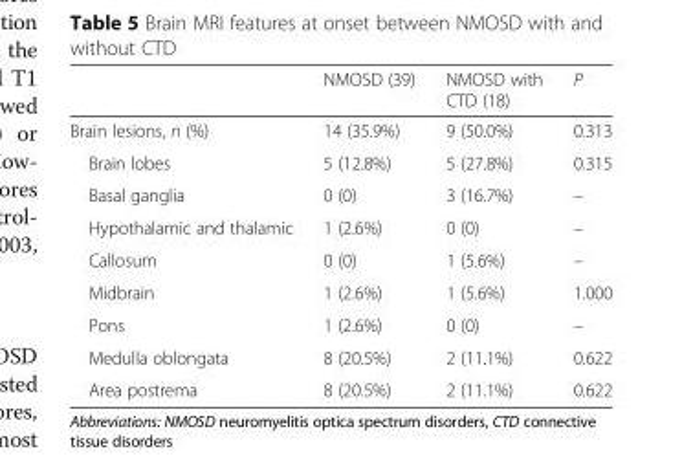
<table><thead><tr><td></td><td>NMOSD (39)</td><td>NMOSD with CTD (18)</td><td>P</td></tr></thead><tbody><tr><td>Brain lesions, n (%)</td><td>14 (35.9%)</td><td>9 (50.0%)</td><td>0.313</td></tr><tr><td>Brain lobes</td><td>5 (12.8%)</td><td>5 (27.8%)</td><td>0.315</td></tr><tr><td>Basal ganglia</td><td>0 (0)</td><td>3 (16.7%)</td><td>–</td></tr><tr><td>Hypothalamic and thalamic</td><td>1 (2.6%)</td><td>0 (0)</td><td>–</td></tr><tr><td>Callosum</td><td>0 (0)</td><td>1 (5.6%)</td><td>–</td></tr><tr><td>Midbrain</td><td>1 (2.6%)</td><td>1 (5.6%)</td><td>1.000</td></tr><tr><td>Pons</td><td>1 (2.6%)</td><td>0 (0)</td><td>–</td></tr><tr><td>Medulla oblongata</td><td>8 (20.5%)</td><td>2 (11.1%)</td><td>0.622</td></tr><tr><td>Area postrema</td><td>8 (20.5%)</td><td>2 (11.1%)</td><td>0.622</td></tr></tbody></table>